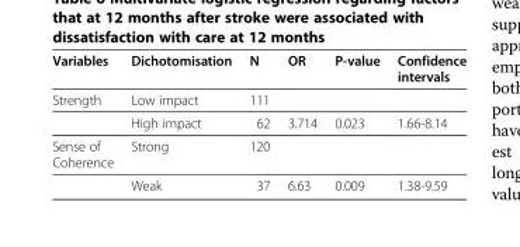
<table><thead><tr><td>Variables</td><td>Dichotomisation</td><td>N</td><td>OR</td><td>P-value</td><td>Confidence intervals</td></tr></thead><tbody><tr><td rowspan="2">Strength</td><td>Low impact</td><td>111</td><td></td><td></td><td></td></tr><tr><td>High impact</td><td>62</td><td>3.714</td><td>0.023</td><td>1.66-8.14</td></tr><tr><td rowspan="2">Sense of Coherence</td><td>Strong</td><td>120</td><td></td><td></td><td></td></tr><tr><td>Weak</td><td>37</td><td>6.63</td><td>0.009</td><td>1.38-9.59</td></tr></tbody></table>